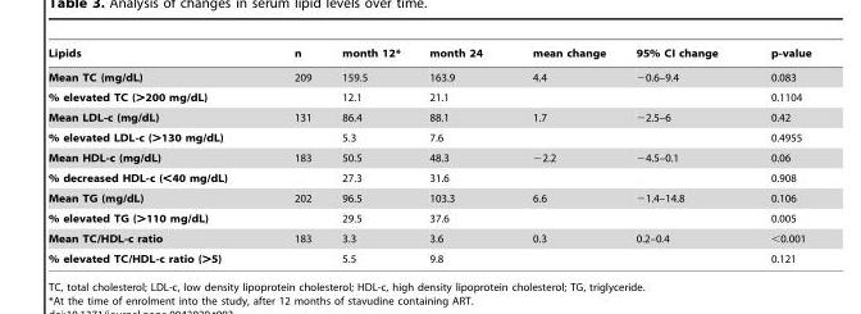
<table><thead><tr><td>Lipids</td><td>n</td><td>month 12*</td><td>month 24</td><td>mean change</td><td>95% CI change</td><td>p-value</td></tr></thead><tbody><tr><td>Mean TC (mg/dL)</td><td>209</td><td>159.5</td><td>163.9</td><td>4.4</td><td>−0.6–9.4</td><td>0.083</td></tr><tr><td>% elevated TC (&gt;200 mg/dL)</td><td></td><td>12.1</td><td>21.1</td><td></td><td></td><td>0.1104</td></tr><tr><td>Mean LDL-c (mg/dL)</td><td>131</td><td>86.4</td><td>88.1</td><td>1.7</td><td>−2.5–6</td><td>0.42</td></tr><tr><td>% elevated LDL-c (&gt;130 mg/dL)</td><td></td><td>5.3</td><td>7.6</td><td></td><td></td><td>0.4955</td></tr><tr><td>Mean HDL-c (mg/dL)</td><td>183</td><td>50.5</td><td>48.3</td><td>−2.2</td><td>−4.5–0.1</td><td>0.06</td></tr><tr><td>% decreased HDL-c (&lt;40 mg/dL)</td><td></td><td>27.3</td><td>31.6</td><td></td><td></td><td>0.908</td></tr><tr><td>Mean TG (mg/dL)</td><td>202</td><td>96.5</td><td>103.3</td><td>6.6</td><td>−1.4–14.8</td><td>0.106</td></tr><tr><td>% elevated TG (&gt;110 mg/dL)</td><td></td><td>29.5</td><td>37.6</td><td></td><td></td><td>0.005</td></tr><tr><td>Mean TC/HDL-c ratio</td><td>183</td><td>3.3</td><td>3.6</td><td>0.3</td><td>0.2–0.4</td><td>&lt;0.001</td></tr><tr><td>% elevated TC/HDL-c ratio (&gt;5)</td><td></td><td>5.5</td><td>9.8</td><td></td><td></td><td>0.121</td></tr></tbody></table>